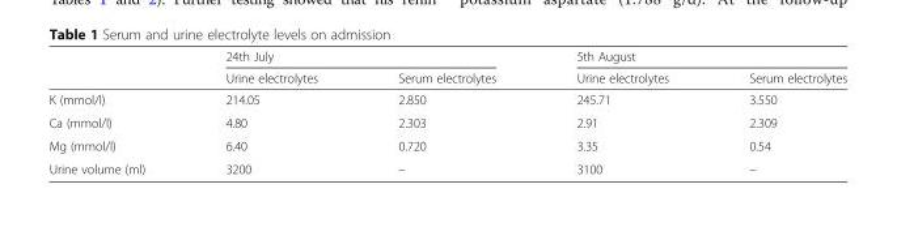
<table><thead><tr><td rowspan="2"></td><td colspan="2">24th July</td><td colspan="2">5th August</td></tr><tr><td>Urine electrolytes</td><td>Serum electrolytes</td><td>Urine electrolytes</td><td>Serum electrolytes</td></tr></thead><tbody><tr><td>K (mmol/l)</td><td>214.05</td><td>2.850</td><td>245.71</td><td>3.550</td></tr><tr><td>Ca (mmol/l)</td><td>4.80</td><td>2.303</td><td>2.91</td><td>2.309</td></tr><tr><td>Mg (mmol/l)</td><td>6.40</td><td>0.720</td><td>3.35</td><td>0.54</td></tr><tr><td>Urine volume (ml)</td><td>3200</td><td>–</td><td>3100</td><td>–</td></tr></tbody></table>